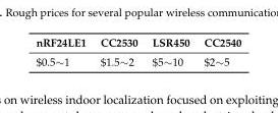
<table><thead><tr><td>nRF24LE1</td><td>CC2530</td><td>LSR450</td><td>CC2540</td></tr></thead><tbody><tr><td>$0.5∼1</td><td>$1.5∼2</td><td>$5∼10</td><td>$2∼5</td></tr></tbody></table>